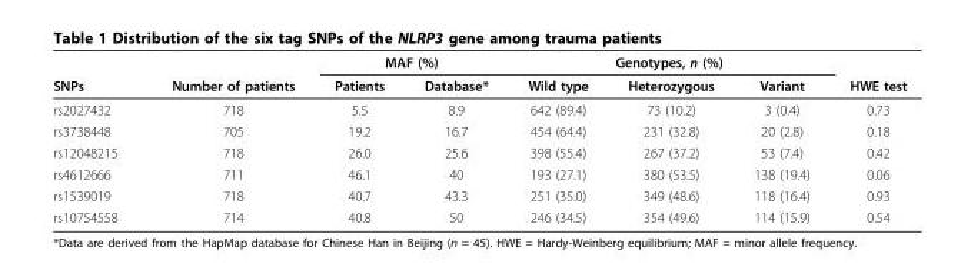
<table><thead><tr><td rowspan="2">SNPs</td><td rowspan="2">Number of patients</td><td colspan="2">MAF (%)</td><td colspan="3">Genotypes, n (%)</td><td rowspan="2">HWE test</td></tr><tr><td>Patients</td><td>Database*</td><td>Wild type</td><td>Heterozygous</td><td>Variant</td></tr></thead><tbody><tr><td>rs2027432</td><td>718</td><td>5.5</td><td>8.9</td><td>642 (89.4)</td><td>73 (10.2)</td><td>3 (0.4)</td><td>0.73</td></tr><tr><td>rs3738448</td><td>705</td><td>19.2</td><td>16.7</td><td>454 (64.4)</td><td>231 (32.8)</td><td>20 (2.8)</td><td>0.18</td></tr><tr><td>rs12048215</td><td>718</td><td>26.0</td><td>25.6</td><td>398 (55.4)</td><td>267 (37.2)</td><td>53 (7.4)</td><td>0.42</td></tr><tr><td>rs4612666</td><td>711</td><td>46.1</td><td>40</td><td>193 (27.1)</td><td>380 (53.5)</td><td>138 (19.4)</td><td>0.06</td></tr><tr><td>rs1539019</td><td>718</td><td>40.7</td><td>43.3</td><td>251 (35.0)</td><td>349 (48.6)</td><td>118 (16.4)</td><td>0.93</td></tr><tr><td>rs10754558</td><td>714</td><td>40.8</td><td>50</td><td>246 (34.5)</td><td>354 (49.6)</td><td>114 (15.9)</td><td>0.54</td></tr></tbody></table>